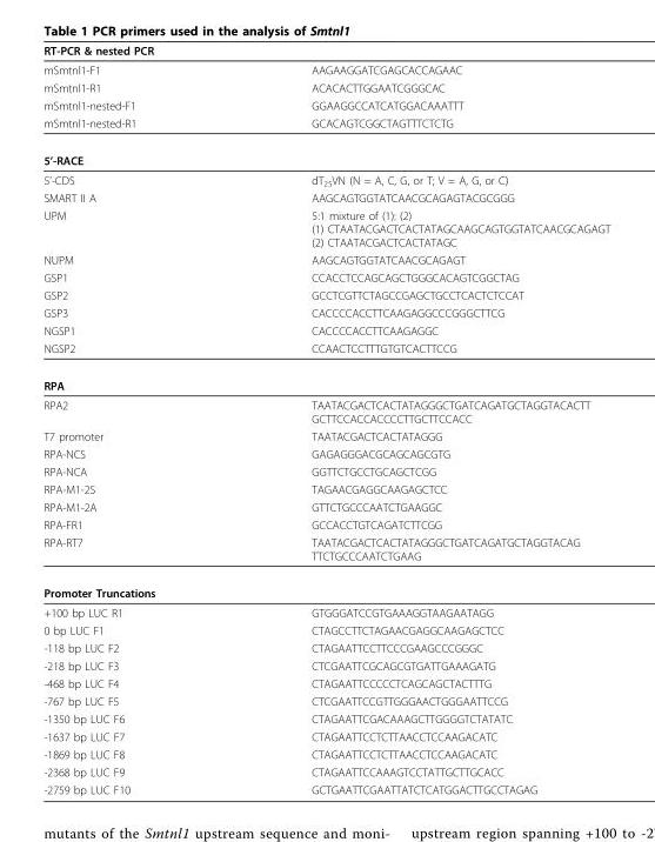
<table><thead><tr><td>RT-PCR &amp; nested PCR</td><td></td></tr></thead><tbody><tr><td>mSmtnl1-F1</td><td>AAGAAGGATCGAGCACCAGAAC</td></tr><tr><td>mSmtnl1-R1</td><td>ACACACTTGGAATCGGGCAC</td></tr><tr><td>mSmtnl1-nested-F1</td><td>GGAAGGCCATCATGGACAAATTT</td></tr><tr><td>mSmtnl1-nested-R1</td><td>GCACAGTCGGCTAGTTTCTCTG</td></tr><tr><td colspan="2">5’-RACE</td></tr><tr><td>5’-CDS</td><td>dT<sub>25</sub>VN (N = A, C, G, or T; V = A, G, or C)</td></tr><tr><td>SMART II A</td><td>AAGCAGTGGTATCAACGCAGAGTACGCGGG</td></tr><tr><td>UPM</td><td>5:1 mixture of (1): (2) (1) CTAATACGACTCACTATAGCAAGCAGTGGTATCAACGCAGAGT (2) CTAATACGACTCACTATAGC</td></tr><tr><td>NUPM</td><td>AAGCAGTGGTATCAACGCAGAGT</td></tr><tr><td>GSP1</td><td>CCACCTCCAGCAGCTGGGCACAGTCGGCTAG</td></tr><tr><td>GSP2</td><td>GCCTCGTTCTAGCCGAGCTGCCTCACTCTCCAT</td></tr><tr><td>GSP3</td><td>CACCCCACCTTCAAGAGGCCCGGGCTTCG</td></tr><tr><td>NGSP1</td><td>CACCCCACCTTCAAGAGGC</td></tr><tr><td>NGSP2</td><td>CCAACTCCTTTGTGTCACTTCCG</td></tr><tr><td colspan="2">RPA</td></tr><tr><td>RPA2</td><td>TAATACGACTCACTATAGGGCTGATCAGATGCTAGGTACACTT GCTTCCACCACCCCTTGCTTCCACC</td></tr><tr><td>T7 promoter</td><td>TAATACGACTCACTATAGGG</td></tr><tr><td>RPA-NCS</td><td>GAGAGGGACGCAGCAGCGTG</td></tr><tr><td>RPA-NCA</td><td>GGTTCTGCCTGCAGCTCGG</td></tr><tr><td>RPA-M1-2S</td><td>TAGAACGAGGCAAGAGCTCC</td></tr><tr><td>RPA-M1-2A</td><td>GTTCTGCCCAATCTGAAGGC</td></tr><tr><td>RPA-FR1</td><td>GCCACCTGTCAGATCTTCGG</td></tr><tr><td>RPA-RT7</td><td>TAATACGACTCACTATAGGGCTGATCAGATGCTAGGTACAG TTCTGCCCAATCTGAAG</td></tr><tr><td colspan="2">Promoter Truncations</td></tr><tr><td>+100 bp LUC R1</td><td>GTGGGATCCGTGAAAGGTAAGAATAGG</td></tr><tr><td>0 bp LUC F1</td><td>CTAGCCTTCTAGAACGAGGCAAGAGCTCC</td></tr><tr><td>-118 bp LUC F2</td><td>CTAGAATTCCTTCCCGAAGCCCGGGC</td></tr><tr><td>-218 bp LUC F3</td><td>CTCGAATTCGCAGCGTGATTGAAAGATG</td></tr><tr><td>-468 bp LUC F4</td><td>CTAGAATTCCCCCTCAGCAGCTACTTTG</td></tr><tr><td>-767 bp LUC F5</td><td>CTCGAATTCCGTTGGGAACTGGGAATTCCG</td></tr><tr><td>-1350 bp LUC F6</td><td>CTAGAATTCGACAAAGCTTGGGGTCTATATC</td></tr><tr><td>-1637 bp LUC F7</td><td>CTAGAATTCCTCTTAACCTCCAAGACATC</td></tr><tr><td>-1869 bp LUC F8</td><td>CTAGAATTCCTCTTAACCTCCAAGACATC</td></tr><tr><td>-2368 bp LUC F9</td><td>CTAGAATTCCAAAGTCCTATTGCTTGCACC</td></tr><tr><td>-2759 bp LUC F10</td><td>GCTGAATTCGAATTATCTCATGGACTTGCCTAGAG</td></tr></tbody></table>